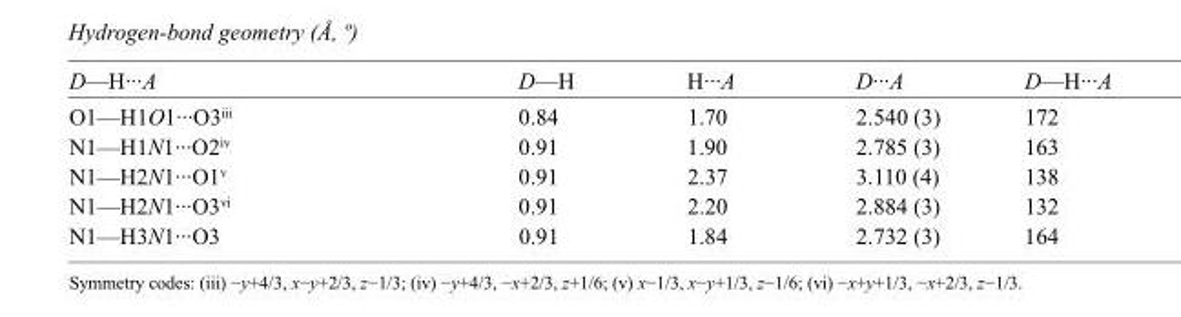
<table><tbody><tr><td>D—H···A</td><td>D—H</td><td>H···A</td><td>D···A</td><td>D—H···A</td></tr><tr><td>O1—H1O1···O3<sup>iii</sup></td><td>0.84</td><td>1.70</td><td>2.540 (3)</td><td>172</td></tr><tr><td>N1—H1N1···O2<sup>iv</sup></td><td>0.91</td><td>1.90</td><td>2.785 (3)</td><td>163</td></tr><tr><td>N1—H2N1···O1<sup>v</sup></td><td>0.91</td><td>2.37</td><td>3.110 (4)</td><td>138</td></tr><tr><td>N1—H2N1···O3<sup>vi</sup></td><td>0.91</td><td>2.20</td><td>2.884 (3)</td><td>132</td></tr><tr><td>N1—H3N1···O3</td><td>0.91</td><td>1.84</td><td>2.732 (3)</td><td>164</td></tr></tbody></table>